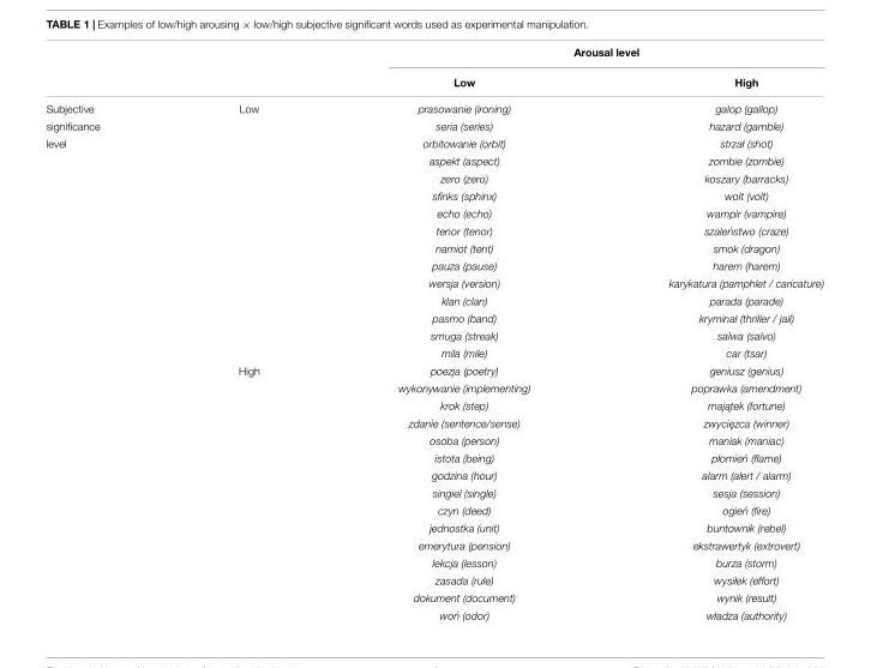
<table><thead><tr><td rowspan="2"></td><td rowspan="2"></td><td colspan="2">Arousal level</td></tr><tr><td>Low</td><td>High</td></tr></thead><tbody><tr><td>Subjective</td><td>Low</td><td>prasowanie (ironing)</td><td>galop (gallop)</td></tr><tr><td>significance</td><td></td><td>seria (series)</td><td>hazard (gamble)</td></tr><tr><td rowspan="28">level</td><td></td><td>orbitowanie (orbit)</td><td>strzał (shot)</td></tr><tr><td></td><td>aspekt (aspect)</td><td>zombie (zombie)</td></tr><tr><td></td><td>zero (zero)</td><td>koszary (barracks)</td></tr><tr><td></td><td>sfinks (sphinx)</td><td>wolt (volt)</td></tr><tr><td></td><td>echo (echo)</td><td>wampir (vampire)</td></tr><tr><td></td><td>tenor (tenor)</td><td>szale ´nstwo (craze)</td></tr><tr><td></td><td>namiot (tent)</td><td>smok (dragon)</td></tr><tr><td></td><td>pauza (pause)</td><td>harem (harem)</td></tr><tr><td></td><td>wersja (version)</td><td>karykatura (pamphlet / caricature)</td></tr><tr><td></td><td>klan (clan)</td><td>parada (parade)</td></tr><tr><td></td><td>pasmo (band)</td><td>kryminał (thriller / jail)</td></tr><tr><td></td><td>smuga (streak)</td><td>salwa (salvo)</td></tr><tr><td></td><td>mila (mile)</td><td>car (tsar)</td></tr><tr><td>High</td><td>poezja (poetry)</td><td>geniusz (genius)</td></tr><tr><td></td><td>wykonywanie (implementing)</td><td>poprawka (amendment)</td></tr><tr><td></td><td>krok (step)</td><td>maj ˛atek (fortune)</td></tr><tr><td></td><td>zdanie (sentence/sense)</td><td>zwyci ˛ezca (winner)</td></tr><tr><td></td><td>osoba (person)</td><td>maniak (maniac)</td></tr><tr><td></td><td>istota (being)</td><td>płomie ´n (flame)</td></tr><tr><td></td><td>godzina (hour)</td><td>alarm (alert / alarm)</td></tr><tr><td></td><td>singiel (single)</td><td>sesja (session)</td></tr><tr><td></td><td>czyn (deed)</td><td>ogie ´n (fire)</td></tr><tr><td></td><td>jednostka (unit)</td><td>buntownik (rebel)</td></tr><tr><td></td><td>emerytura (pension)</td><td>ekstrawertyk (extrovert)</td></tr><tr><td></td><td>lekcja (lesson)</td><td>burza (storm)</td></tr><tr><td></td><td>zasada (rule)</td><td>wysiłek (effort)</td></tr><tr><td></td><td>dokument (document)</td><td>wynik (result)</td></tr><tr><td></td><td>wo ´n (odor)</td><td>władza (authority)</td></tr></tbody></table>